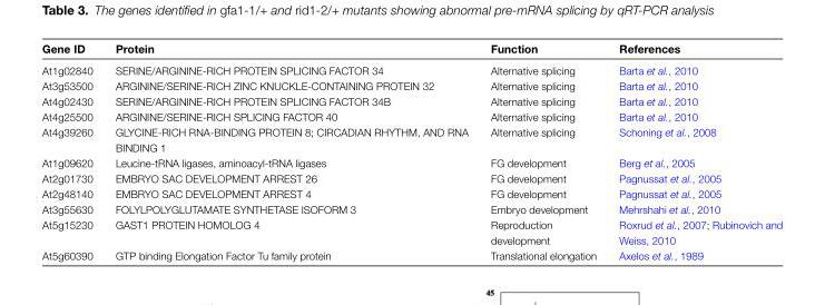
<table><thead><tr><td>Gene ID</td><td>Protein</td><td>Function</td><td>References</td></tr></thead><tbody><tr><td>At1g02840</td><td>SERINE/ARGININE-RICH PROTEIN SPLICING FACTOR 34</td><td>Alternative splicing</td><td>Barta et al., 2010</td></tr><tr><td>At3g53500</td><td>ARGININE/SERINE-RICH ZINC KNUCKLE-CONTAINING PROTEIN 32</td><td>Alternative splicing</td><td>Barta et al., 2010</td></tr><tr><td>At4g02430</td><td>SERINE/ARGININE-RICH PROTEIN SPLICING FACTOR 34B</td><td>Alternative splicing</td><td>Barta et al., 2010</td></tr><tr><td>At4g25500</td><td>ARGININE/SERINE-RICH SPLICING FACTOR 40</td><td>Alternative splicing</td><td>Barta et al., 2010</td></tr><tr><td>At4g39260</td><td>GLYCINE-RICH RNA-BINDING PROTEIN 8; CIRCADIAN RHYTHM, AND RNA BINDING 1</td><td>Alternative splicing</td><td>Schoning et al., 2008</td></tr><tr><td>At1g09620</td><td>Leucine-tRNA ligases, aminoacyl-tRNA ligases</td><td>FG development</td><td>Berg et al., 2005</td></tr><tr><td>At2g01730</td><td>EMBRYO SAC DEVELOPMENT ARREST 26</td><td>FG development</td><td>Pagnussat et al., 2005</td></tr><tr><td>At2g48140</td><td>EMBRYO SAC DEVELOPMENT ARREST 4</td><td>FG development</td><td>Pagnussat et al., 2005</td></tr><tr><td>At3g55630</td><td>FOLYLPOLYGLUTAMATE SYNTHETASE ISOFORM 3</td><td>Embryo development</td><td>Mehrshahi et al., 2010</td></tr><tr><td>At5g15230</td><td>GAST1 PROTEIN HOMOLOG 4</td><td>Reproduction development</td><td>Roxrud et al., 2007; Rubinovich and Weiss, 2010</td></tr><tr><td>At5g60390</td><td>GTP binding Elongation Factor Tu family protein</td><td>Translational elongation</td><td>Axelos et al., 1989</td></tr></tbody></table>